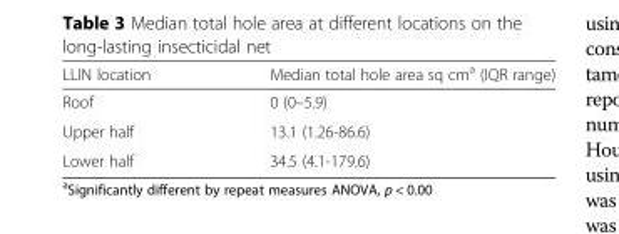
<table><thead><tr><td>LLIN location</td><td>Median total hole area sq cm<sup>a</sup> (IQR range)</td></tr></thead><tbody><tr><td>Roof</td><td>0 (0–5.9)</td></tr><tr><td>Upper half</td><td>13.1 (1.26-86.6)</td></tr><tr><td>Lower half</td><td>34.5 (4.1-179.6)</td></tr></tbody></table>